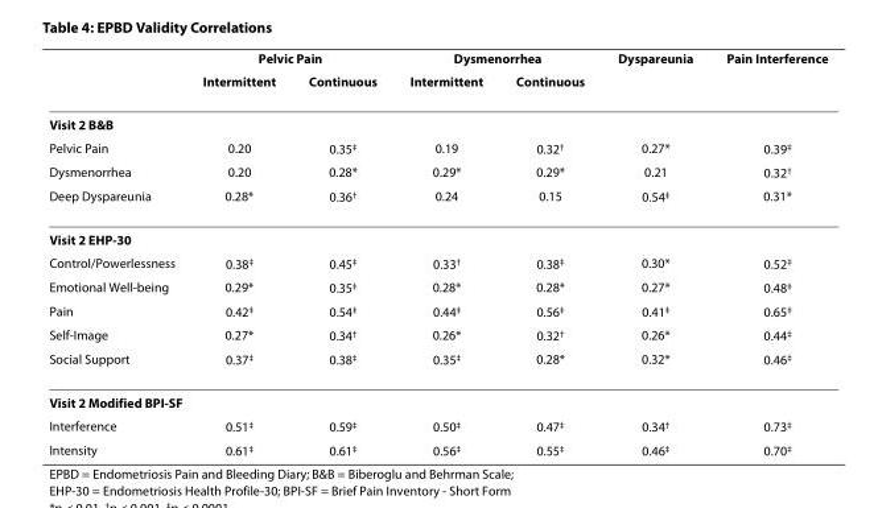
<table><thead><tr><td rowspan="2"></td><td colspan="2">Pelvic Pain</td><td colspan="2">Dysmenorrhea</td><td rowspan="2">Dyspareunia</td><td rowspan="2">Pain Interference</td></tr><tr><td>Intermittent</td><td>Continuous</td><td>Intermittent</td><td>Continuous</td></tr></thead><tbody><tr><td colspan="7">Visit 2 B&amp;B</td></tr><tr><td>Pelvic Pain</td><td>0.20</td><td>0.35<sup>‡</sup></td><td>0.19</td><td>0.32<sup>†</sup></td><td>0.27*</td><td>0.39<sup>‡</sup></td></tr><tr><td>Dysmenorrhea</td><td>0.20</td><td>0.28*</td><td>0.29*</td><td>0.29*</td><td>0.21</td><td>0.32<sup>†</sup></td></tr><tr><td>Deep Dyspareunia</td><td>0.28*</td><td>0.36<sup>†</sup></td><td>0.24</td><td>0.15</td><td>0.54<sup>‡</sup></td><td>0.31*</td></tr><tr><td colspan="7">Visit 2 EHP-30</td></tr><tr><td>Control/Powerlessness</td><td>0.38<sup>‡</sup></td><td>0.45<sup>‡</sup></td><td>0.33<sup>†</sup></td><td>0.38<sup>‡</sup></td><td>0.30*</td><td>0.52<sup>‡</sup></td></tr><tr><td>Emotional Well-being</td><td>0.29*</td><td>0.35<sup>‡</sup></td><td>0.28*</td><td>0.28*</td><td>0.27*</td><td>0.48<sup>‡</sup></td></tr><tr><td>Pain</td><td>0.42<sup>‡</sup></td><td>0.54<sup>‡</sup></td><td>0.44<sup>‡</sup></td><td>0.56<sup>‡</sup></td><td>0.41<sup>‡</sup></td><td>0.65<sup>‡</sup></td></tr><tr><td>Self-Image</td><td>0.27*</td><td>0.34<sup>†</sup></td><td>0.26*</td><td>0.32<sup>†</sup></td><td>0.26*</td><td>0.44<sup>‡</sup></td></tr><tr><td>Social Support</td><td>0.37<sup>‡</sup></td><td>0.38<sup>‡</sup></td><td>0.35<sup>‡</sup></td><td>0.28*</td><td>0.32*</td><td>0.46<sup>‡</sup></td></tr><tr><td colspan="7">Visit 2 Modified BPI-SF</td></tr><tr><td>Interference</td><td>0.51<sup>‡</sup></td><td>0.59<sup>‡</sup></td><td>0.50<sup>‡</sup></td><td>0.47<sup>‡</sup></td><td>0.34<sup>†</sup></td><td>0.73<sup>‡</sup></td></tr><tr><td>Intensity</td><td>0.61<sup>‡</sup></td><td>0.61<sup>‡</sup></td><td>0.56<sup>‡</sup></td><td>0.55<sup>‡</sup></td><td>0.46<sup>‡</sup></td><td>0.70<sup>‡</sup></td></tr></tbody></table>